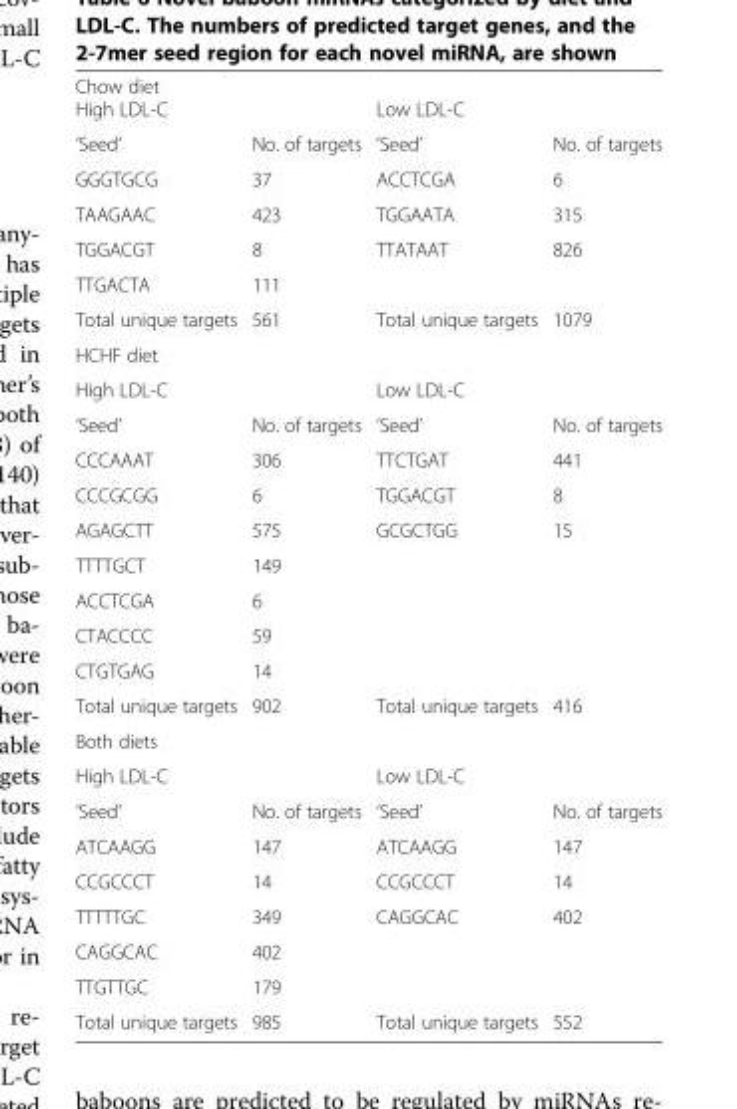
<table><thead><tr><td colspan="4">Chow diet</td></tr><tr><td colspan="2">High LDL-C</td><td colspan="2">Low LDL-C</td></tr><tr><td>‘Seed’</td><td>No. of targets</td><td>‘Seed’</td><td>No. of targets</td></tr></thead><tbody><tr><td>GGGTGCG</td><td>37</td><td>ACCTCGA</td><td>6</td></tr><tr><td>TAAGAAC</td><td>423</td><td>TGGAATA</td><td>315</td></tr><tr><td>TGGACGT</td><td>8</td><td>TTATAAT</td><td>826</td></tr><tr><td>TTGACTA</td><td>111</td><td></td><td></td></tr><tr><td>Total unique targets</td><td>561</td><td>Total unique targets</td><td>1079</td></tr><tr><td colspan="4">HCHF diet</td></tr><tr><td colspan="2">High LDL-C</td><td colspan="2">Low LDL-C</td></tr><tr><td>‘Seed’</td><td>No. of targets</td><td>‘Seed’</td><td>No. of targets</td></tr><tr><td>CCCAAAT</td><td>306</td><td>TTCTGAT</td><td>441</td></tr><tr><td>CCCGCGG</td><td>6</td><td>TGGACGT</td><td>8</td></tr><tr><td>AGAGCTT</td><td>575</td><td>GCGCTGG</td><td>15</td></tr><tr><td>TTTTGCT</td><td>149</td><td></td><td></td></tr><tr><td>ACCTCGA</td><td>6</td><td></td><td></td></tr><tr><td>CTACCCC</td><td>59</td><td></td><td></td></tr><tr><td>CTGTGAG</td><td>14</td><td></td><td></td></tr><tr><td>Total unique targets</td><td>902</td><td>Total unique targets</td><td>416</td></tr><tr><td colspan="4">Both diets</td></tr><tr><td colspan="2">High LDL-C</td><td colspan="2">Low LDL-C</td></tr><tr><td>‘Seed’</td><td>No. of targets</td><td>‘Seed’</td><td>No. of targets</td></tr><tr><td>ATCAAGG</td><td>147</td><td>ATCAAGG</td><td>147</td></tr><tr><td>CCGCCCT</td><td>14</td><td>CCGCCCT</td><td>14</td></tr><tr><td>TTTTTGC</td><td>349</td><td>CAGGCAC</td><td>402</td></tr><tr><td>CAGGCAC</td><td>402</td><td></td><td></td></tr><tr><td>TTGTTGC</td><td>179</td><td></td><td></td></tr><tr><td>Total unique targets</td><td>985</td><td>Total unique targets</td><td>552</td></tr></tbody></table>